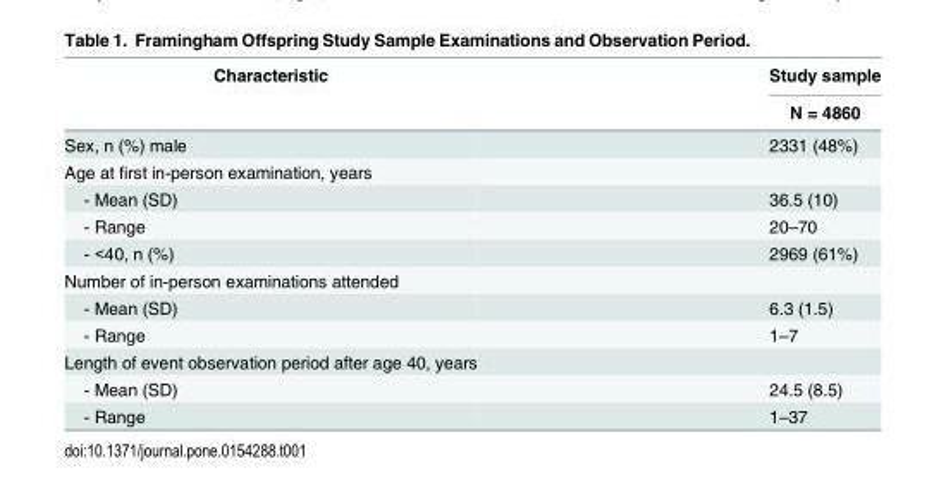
<table><thead><tr><td rowspan="2">Characteristic</td><td rowspan="2">Study sample N = 4860</td></tr><tr></tr></thead><tbody><tr><td>Sex, n (%) male</td><td>2331 (48%)</td></tr><tr><td colspan="2">Age at first in-person examination, years</td></tr><tr><td>- Mean (SD)</td><td>36.5 (10)</td></tr><tr><td>- Range</td><td>20–70</td></tr><tr><td>- &lt;40, n (%)</td><td>2969 (61%)</td></tr><tr><td colspan="2">Number of in-person examinations attended</td></tr><tr><td>- Mean (SD)</td><td>6.3 (1.5)</td></tr><tr><td>- Range</td><td>1–7</td></tr><tr><td colspan="2">Length of event observation period after age 40, years</td></tr><tr><td>- Mean (SD)</td><td>24.5 (8.5)</td></tr><tr><td>- Range</td><td>1–37</td></tr></tbody></table>